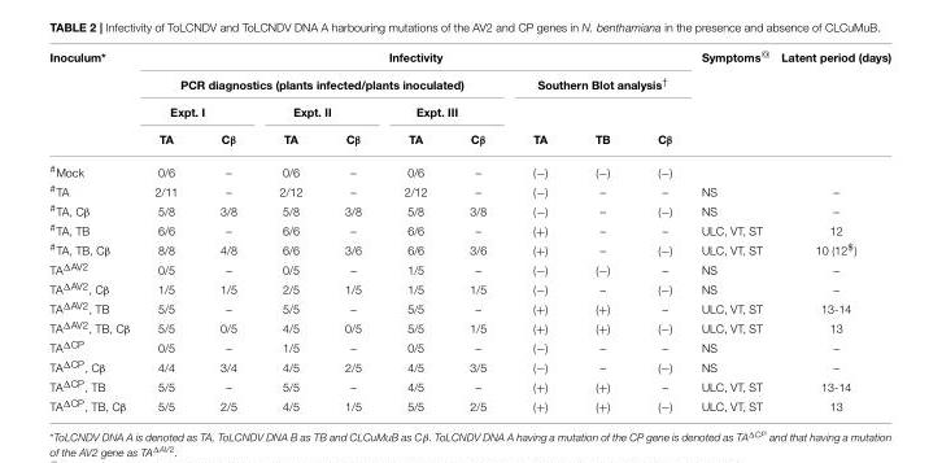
<table><thead><tr><td rowspan="4">Inoculum*</td><td colspan="9">Infectivity</td><td rowspan="4">Symptoms<sup>@</sup></td><td rowspan="4">Latent period (days)</td></tr><tr><td colspan="6">PCR diagnostics (plants infected/plants inoculated)</td><td colspan="3">Southern Blot analysis<sup>†</sup></td></tr><tr><td colspan="2">Expt. I</td><td colspan="2">Expt. II</td><td colspan="2">Expt. III</td><td rowspan="2">TA</td><td rowspan="2">TB</td><td rowspan="2">Cβ</td></tr><tr><td>TA</td><td>Cβ</td><td>TA</td><td>Cβ</td><td>TA</td><td>Cβ</td></tr></thead><tbody><tr><td><sup>#</sup>Mock</td><td>0/6</td><td>–</td><td>0/6</td><td>–</td><td>0/6</td><td>–</td><td>(−)</td><td>(−)</td><td>(−)</td><td></td><td></td></tr><tr><td><sup>#</sup>TA</td><td>2/11</td><td>–</td><td>2/12</td><td>–</td><td>2/12</td><td>–</td><td>(−)</td><td>–</td><td>–</td><td>NS</td><td>–</td></tr><tr><td><sup>#</sup>TA, Cβ</td><td>5/8</td><td>3/8</td><td>5/8</td><td>3/8</td><td>5/8</td><td>3/8</td><td>(−)</td><td>–</td><td>(−)</td><td>NS</td><td>–</td></tr><tr><td><sup>#</sup>TA, TB</td><td>6/6</td><td>–</td><td>6/6</td><td>–</td><td>6/6</td><td>–</td><td>(+)</td><td>–</td><td>–</td><td>ULC, VT, ST</td><td>12</td></tr><tr><td><sup>#</sup>TA, TB, Cβ</td><td>8/8</td><td>4/8</td><td>6/6</td><td>3/6</td><td>6/6</td><td>3/6</td><td>(+)</td><td>–</td><td>(−)</td><td>ULC, VT, ST</td><td>10 (12<sup>$</sup>)</td></tr><tr><td>TA<sup>ΔAV2</sup></td><td>0/5</td><td>–</td><td>0/5</td><td>–</td><td>1/5</td><td>–</td><td>(−)</td><td>(−)</td><td>–</td><td>NS</td><td>–</td></tr><tr><td>TA<sup>ΔAV2</sup>, Cβ</td><td>1/5</td><td>1/5</td><td>2/5</td><td>1/5</td><td>1/5</td><td>1/5</td><td>(−)</td><td>–</td><td>(−)</td><td>NS</td><td>–</td></tr><tr><td>TA<sup>ΔAV2</sup>, TB</td><td>5/5</td><td>–</td><td>5/5</td><td>–</td><td>5/5</td><td>–</td><td>(+)</td><td>(+)</td><td>–</td><td>ULC, VT, ST</td><td>13-14</td></tr><tr><td>TA<sup>ΔAV2</sup>, TB, Cβ</td><td>5/5</td><td>0/5</td><td>4/5</td><td>0/5</td><td>5/5</td><td>1/5</td><td>(+)</td><td>(+)</td><td>(−)</td><td>ULC, VT, ST</td><td>13</td></tr><tr><td>TA<sup>ΔCP</sup></td><td>0/5</td><td>–</td><td>1/5</td><td>–</td><td>0/5</td><td>–</td><td>(−)</td><td>–</td><td>–</td><td>NS</td><td>–</td></tr><tr><td>TA<sup>ΔCP</sup>, Cβ</td><td>4/4</td><td>3/4</td><td>4/5</td><td>2/5</td><td>4/5</td><td>3/5</td><td>(−)</td><td>–</td><td>(−)</td><td>NS</td><td>–</td></tr><tr><td>TA<sup>ΔCP</sup>, TB</td><td>5/5</td><td>–</td><td>5/5</td><td>–</td><td>4/5</td><td>–</td><td>(+)</td><td>(+)</td><td>–</td><td>ULC, VT, ST</td><td>13-14</td></tr><tr><td>TA<sup>ΔCP</sup>, TB, Cβ</td><td>5/5</td><td>2/5</td><td>4/5</td><td>1/5</td><td>5/5</td><td>2/5</td><td>(+)</td><td>(+)</td><td>(−)</td><td>ULC, VT, ST</td><td>13</td></tr></tbody></table>